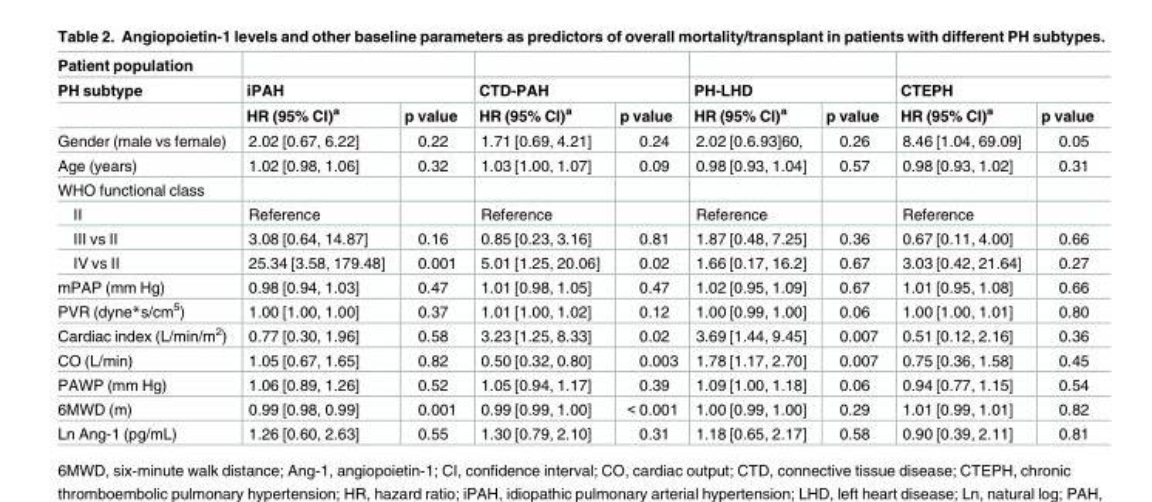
<table><thead><tr><td rowspan="3">Patient population PH subtype</td><td></td><td></td><td></td><td></td><td></td><td></td><td></td><td></td></tr><tr><td colspan="2">iPAH</td><td colspan="2">CTD-PAH</td><td colspan="2">PH-LHD</td><td colspan="2">CTEPH</td></tr><tr><td>HR (95% CI)<sup>a</sup></td><td>p value</td><td>HR (95% CI)<sup>a</sup></td><td>p value</td><td>HR (95% CI)<sup>a</sup></td><td>p value</td><td>HR (95% CI)<sup>a</sup></td><td>p value</td></tr></thead><tbody><tr><td>Gender (male vs female)</td><td>2.02 [0.67, 6.22]</td><td>0.22</td><td>1.71 [0.69, 4.21]</td><td>0.24</td><td>2.02 [0.6.93]60,</td><td>0.26</td><td>8.46 [1.04, 69.09]</td><td>0.05</td></tr><tr><td>Age (years)</td><td>1.02 [0.98, 1.06]</td><td>0.32</td><td>1.03 [1.00, 1.07]</td><td>0.09</td><td>0.98 [0.93, 1.04]</td><td>0.57</td><td>0.98 [0.93, 1.02]</td><td>0.31</td></tr><tr><td colspan="9">WHO functional class</td></tr><tr><td>II</td><td>Reference</td><td></td><td>Reference</td><td></td><td>Reference</td><td></td><td>Reference</td><td></td></tr><tr><td>III vs II</td><td>3.08 [0.64, 14.87]</td><td>0.16</td><td>0.85 [0.23, 3.16]</td><td>0.81</td><td>1.87 [0.48, 7.25]</td><td>0.36</td><td>0.67 [0.11, 4.00]</td><td>0.66</td></tr><tr><td>IV vs II</td><td>25.34 [3.58, 179.48]</td><td>0.001</td><td>5.01 [1.25, 20.06]</td><td>0.02</td><td>1.66 [0.17, 16.2]</td><td>0.67</td><td>3.03 [0.42, 21.64]</td><td>0.27</td></tr><tr><td>mPAP (mm Hg)</td><td>0.98 [0.94, 1.03]</td><td>0.47</td><td>1.01 [0.98, 1.05]</td><td>0.47</td><td>1.02 [0.95, 1.09]</td><td>0.67</td><td>1.01 [0.95, 1.08]</td><td>0.66</td></tr><tr><td>PVR (dyne*s/cm<sup>5</sup>)</td><td>1.00 [1.00, 1.00]</td><td>0.37</td><td>1.01 [1.00, 1.02]</td><td>0.12</td><td>1.00 [0.99, 1.00]</td><td>0.06</td><td>1.00 [1.00, 1.01]</td><td>0.80</td></tr><tr><td>Cardiac index (L/min/m<sup>2</sup>)</td><td>0.77 [0.30, 1.96]</td><td>0.58</td><td>3.23 [1.25, 8.33]</td><td>0.02</td><td>3.69 [1.44, 9.45]</td><td>0.007</td><td>0.51 [0.12, 2.16]</td><td>0.36</td></tr><tr><td>CO (L/min)</td><td>1.05 [0.67, 1.65]</td><td>0.82</td><td>0.50 [0.32, 0.80]</td><td>0.003</td><td>1.78 [1.17, 2.70]</td><td>0.007</td><td>0.75 [0.36, 1.58]</td><td>0.45</td></tr><tr><td>PAWP (mm Hg)</td><td>1.06 [0.89, 1.26]</td><td>0.52</td><td>1.05 [0.94, 1.17]</td><td>0.39</td><td>1.09 [1.00, 1.18]</td><td>0.06</td><td>0.94 [0.77, 1.15]</td><td>0.54</td></tr><tr><td>6MWD (m)</td><td>0.99 [0.98, 0.99]</td><td>0.001</td><td>0.99 [0.99, 1.00]</td><td>&lt; 0.001</td><td>1.00 [0.99, 1.00]</td><td>0.29</td><td>1.01 [0.99, 1.01]</td><td>0.82</td></tr><tr><td>Ln Ang-1 (pg/mL)</td><td>1.26 [0.60, 2.63]</td><td>0.55</td><td>1.30 [0.79, 2.10]</td><td>0.31</td><td>1.18 [0.65, 2.17]</td><td>0.58</td><td>0.90 [0.39, 2.11]</td><td>0.81</td></tr></tbody></table>